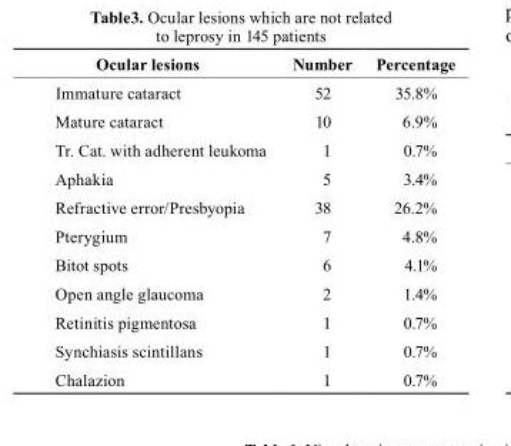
<table><thead><tr><td>Ocular lesions</td><td>Number</td><td>Percentage</td></tr></thead><tbody><tr><td>Immature cataract</td><td>52</td><td>35.8%</td></tr><tr><td>Mature cataract</td><td>10</td><td>6.9%</td></tr><tr><td>Tr. Cat. with adherent leukoma</td><td>1</td><td>0.7%</td></tr><tr><td>Aphakia</td><td>5</td><td>3.4%</td></tr><tr><td>Refractive error/Presbyopia</td><td>38</td><td>26.2%</td></tr><tr><td>Pterygium</td><td>7</td><td>4.8%</td></tr><tr><td>Bitot spots</td><td>6</td><td>4.1%</td></tr><tr><td>Open angle glaucoma</td><td>2</td><td>1.4%</td></tr><tr><td>Retinitis pigmentosa</td><td>1</td><td>0.7%</td></tr><tr><td>Synchiasis scintillans</td><td>1</td><td>0.7%</td></tr><tr><td>Chalazion</td><td>1</td><td>0.7%</td></tr></tbody></table>